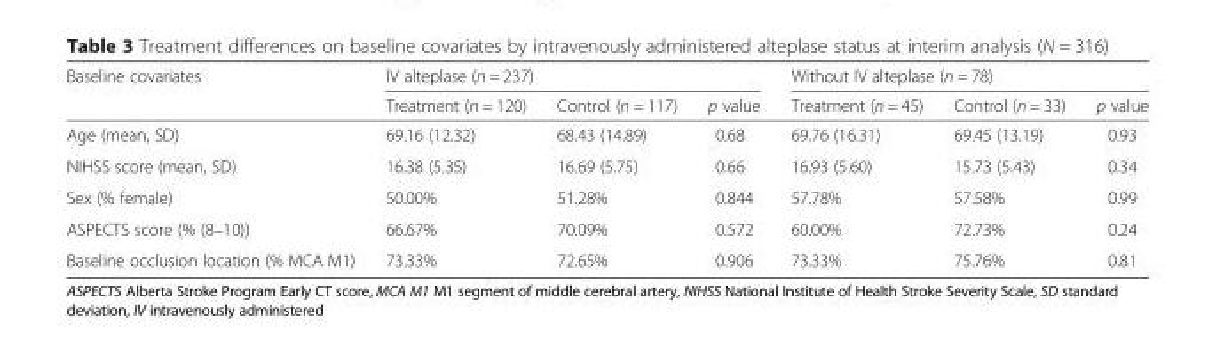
<table><thead><tr><td rowspan="2">Baseline covariates</td><td colspan="3">IV alteplase (n = 237)</td><td colspan="3">Without IV alteplase (n = 78)</td></tr><tr><td>Treatment (n = 120)</td><td>Control (n = 117)</td><td>p value</td><td>Treatment (n = 45)</td><td>Control (n = 33)</td><td>p value</td></tr></thead><tbody><tr><td>Age (mean, SD)</td><td>69.16 (12.32)</td><td>68.43 (14.89)</td><td>0.68</td><td>69.76 (16.31)</td><td>69.45 (13.19)</td><td>0.93</td></tr><tr><td>NIHSS score (mean, SD)</td><td>16.38 (5.35)</td><td>16.69 (5.75)</td><td>0.66</td><td>16.93 (5.60)</td><td>15.73 (5.43)</td><td>0.34</td></tr><tr><td>Sex (% female)</td><td>50.00%</td><td>51.28%</td><td>0.844</td><td>57.78%</td><td>57.58%</td><td>0.99</td></tr><tr><td>ASPECTS score (% (8–10))</td><td>66.67%</td><td>70.09%</td><td>0.572</td><td>60.00%</td><td>72.73%</td><td>0.24</td></tr><tr><td>Baseline occlusion location (% MCA M1)</td><td>73.33%</td><td>72.65%</td><td>0.906</td><td>73.33%</td><td>75.76%</td><td>0.81</td></tr></tbody></table>